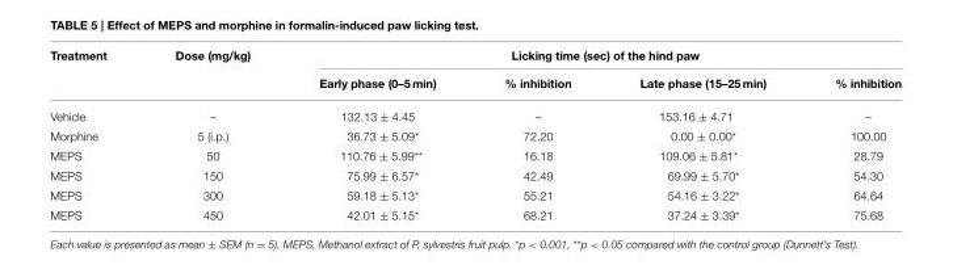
<table><thead><tr><td rowspan="2">Treatment</td><td rowspan="2">Dose (mg/kg)</td><td colspan="4">Licking time (sec) of the hind paw</td></tr><tr><td>Early phase (0–5 min)</td><td>% inhibition</td><td>Late phase (15–25 min)</td><td>% inhibition</td></tr></thead><tbody><tr><td>Vehicle</td><td>–</td><td>132.13 ± 4.45</td><td>–</td><td>153.16 ± 4.71</td><td>–</td></tr><tr><td>Morphine</td><td>5 (i.p.)</td><td>36.73 ± 5.09*</td><td>72.20</td><td>0.00 ± 0.00*</td><td>100.00</td></tr><tr><td>MEPS</td><td>50</td><td>110.76 ± 5.99**</td><td>16.18</td><td>109.06 ± 5.81*</td><td>28.79</td></tr><tr><td>MEPS</td><td>150</td><td>75.99 ± 6.57*</td><td>42.49</td><td>69.99 ± 5.70*</td><td>54.30</td></tr><tr><td>MEPS</td><td>300</td><td>59.18 ± 5.13*</td><td>55.21</td><td>54.16 ± 3.22*</td><td>64.64</td></tr><tr><td>MEPS</td><td>450</td><td>42.01 ± 5.15*</td><td>68.21</td><td>37.24 ± 3.39*</td><td>75.68</td></tr></tbody></table>